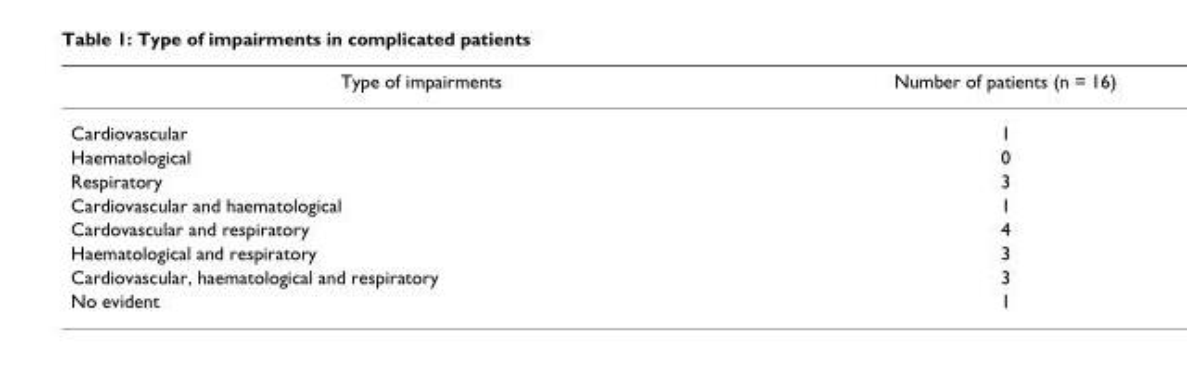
<table><thead><tr><td>Type of impairments</td><td>Number of patients (n = 16)</td></tr></thead><tbody><tr><td>Cardiovascular</td><td>1</td></tr><tr><td>Haematological</td><td>0</td></tr><tr><td>Respiratory</td><td>3</td></tr><tr><td>Cardiovascular and haematological</td><td>1</td></tr><tr><td>Cardovascular and respiratory</td><td>4</td></tr><tr><td>Haematological and respiratory</td><td>3</td></tr><tr><td>Cardiovascular, haematological and respiratory</td><td>3</td></tr><tr><td>No evident</td><td>1</td></tr></tbody></table>